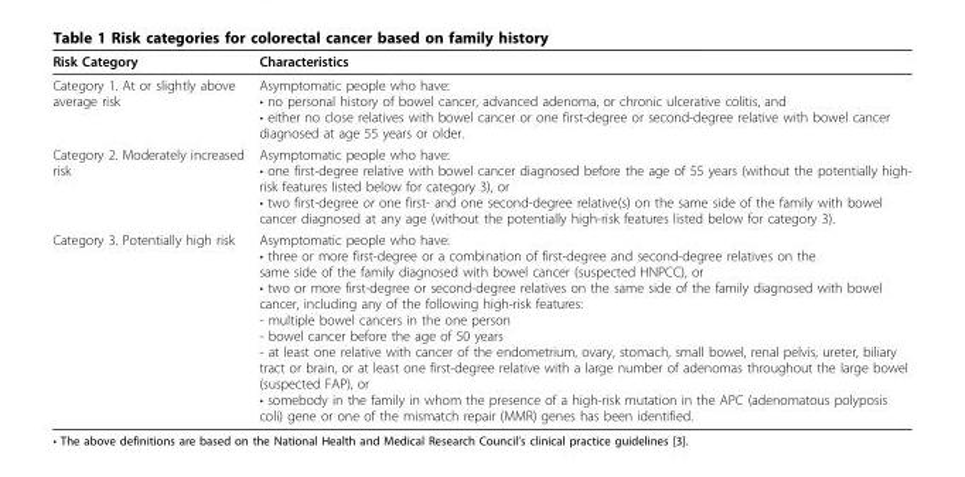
<table><thead><tr><td>Risk Category</td><td>Characteristics</td></tr></thead><tbody><tr><td>Category 1. At or slightly above average risk</td><td>Asymptomatic people who have: • no personal history of bowel cancer, advanced adenoma, or chronic ulcerative colitis, and • either no close relatives with bowel cancer or one first-degree or second-degree relative with bowel cancer diagnosed at age 55 years or older.</td></tr><tr><td>Category 2. Moderately increased risk</td><td>Asymptomatic people who have: • one first-degree relative with bowel cancer diagnosed before the age of 55 years (without the potentially high- risk features listed below for category 3), or • two first-degree or one first- and one second-degree relative(s) on the same side of the family with bowel cancer diagnosed at any age (without the potentially high-risk features listed below for category 3).</td></tr><tr><td>Category 3. Potentially high risk</td><td>Asymptomatic people who have: • three or more first-degree or a combination of first-degree and second-degree relatives on the same side of the family diagnosed with bowel cancer (suspected HNPCC), or • two or more first-degree or second-degree relatives on the same side of the family diagnosed with bowel cancer, including any of the following high-risk features: - multiple bowel cancers in the one person - bowel cancer before the age of 50 years - at least one relative with cancer of the endometrium, ovary, stomach, small bowel, renal pelvis, ureter, biliary tract or brain, or at least one first-degree relative with a large number of adenomas throughout the large bowel (suspected FAP), or • somebody in the family in whom the presence of a high-risk mutation in the APC (adenomatous polyposis coli) gene or one of the mismatch repair (MMR) genes has been identified.</td></tr></tbody></table>